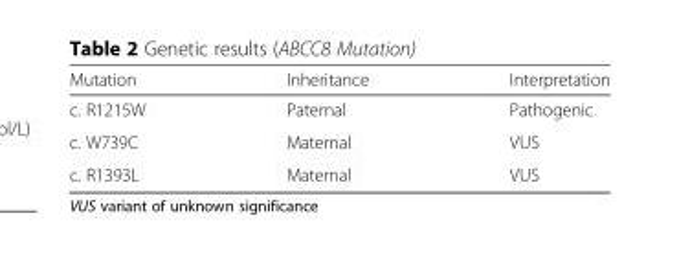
<table><thead><tr><td>Mutation</td><td>Inheritance</td><td>Interpretation</td></tr></thead><tbody><tr><td>c. R1215W</td><td>Paternal</td><td>Pathogenic</td></tr><tr><td>c. W739C</td><td>Maternal</td><td>VUS</td></tr><tr><td>c. R1393L</td><td>Maternal</td><td>VUS</td></tr></tbody></table>